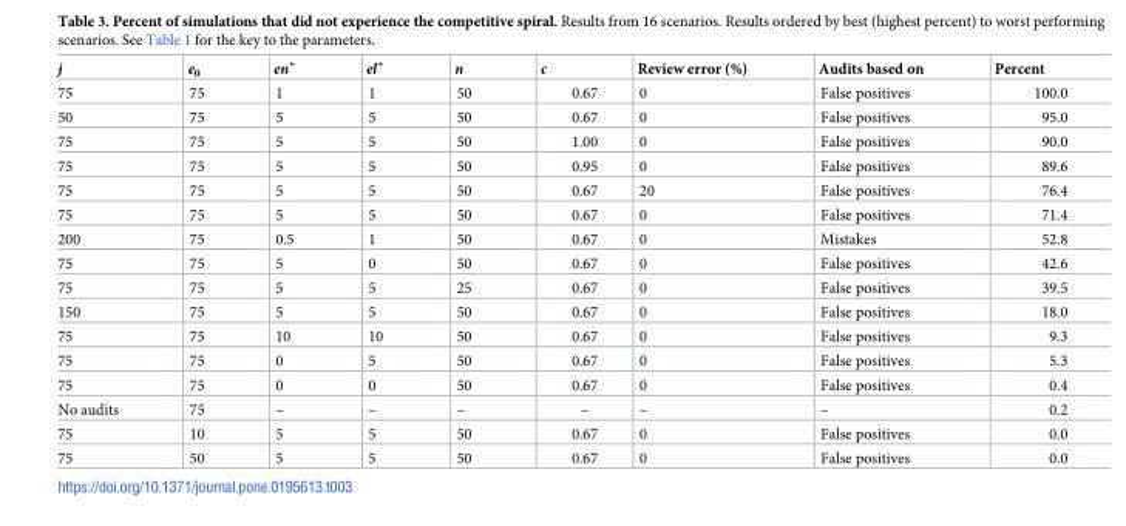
<table><thead><tr><td>j</td><td>e<sub>0</sub></td><td>en<sup>+</sup></td><td>el<sup>+</sup></td><td>n</td><td>c</td><td>Review error (%)</td><td>Audits based on</td><td>Percent</td></tr></thead><tbody><tr><td>75</td><td>75</td><td>1</td><td>1</td><td>50</td><td>0.67</td><td>0</td><td>False positives</td><td>100.0</td></tr><tr><td>50</td><td>75</td><td>5</td><td>5</td><td>50</td><td>0.67</td><td>0</td><td>False positives</td><td>95.0</td></tr><tr><td>75</td><td>75</td><td>5</td><td>5</td><td>50</td><td>1.00</td><td>0</td><td>False positives</td><td>90.0</td></tr><tr><td>75</td><td>75</td><td>5</td><td>5</td><td>50</td><td>0.95</td><td>0</td><td>False positives</td><td>89.6</td></tr><tr><td>75</td><td>75</td><td>5</td><td>5</td><td>50</td><td>0.67</td><td>20</td><td>False positives</td><td>76.4</td></tr><tr><td>75</td><td>75</td><td>5</td><td>5</td><td>50</td><td>0.67</td><td>0</td><td>False positives</td><td>71.4</td></tr><tr><td>200</td><td>75</td><td>0.5</td><td>1</td><td>50</td><td>0.67</td><td>0</td><td>Mistakes</td><td>52.8</td></tr><tr><td>75</td><td>75</td><td>5</td><td>0</td><td>50</td><td>0.67</td><td>0</td><td>False positives</td><td>42.6</td></tr><tr><td>75</td><td>75</td><td>5</td><td>5</td><td>25</td><td>0.67</td><td>0</td><td>False positives</td><td>39.5</td></tr><tr><td>150</td><td>75</td><td>5</td><td>5</td><td>50</td><td>0.67</td><td>0</td><td>False positives</td><td>18.0</td></tr><tr><td>75</td><td>75</td><td>10</td><td>10</td><td>50</td><td>0.67</td><td>0</td><td>False positives</td><td>9.3</td></tr><tr><td>75</td><td>75</td><td>0</td><td>5</td><td>50</td><td>0.67</td><td>0</td><td>False positives</td><td>5.3</td></tr><tr><td>75</td><td>75</td><td>0</td><td>0</td><td>50</td><td>0.67</td><td>0</td><td>False positives</td><td>0.4</td></tr><tr><td>No audits</td><td>75</td><td>–</td><td>–</td><td>–</td><td>–</td><td>–</td><td>–</td><td>0.2</td></tr><tr><td>75</td><td>10</td><td>5</td><td>5</td><td>50</td><td>0.67</td><td>0</td><td>False positives</td><td>0.0</td></tr><tr><td>75</td><td>50</td><td>5</td><td>5</td><td>50</td><td>0.67</td><td>0</td><td>False positives</td><td>0.0</td></tr></tbody></table>